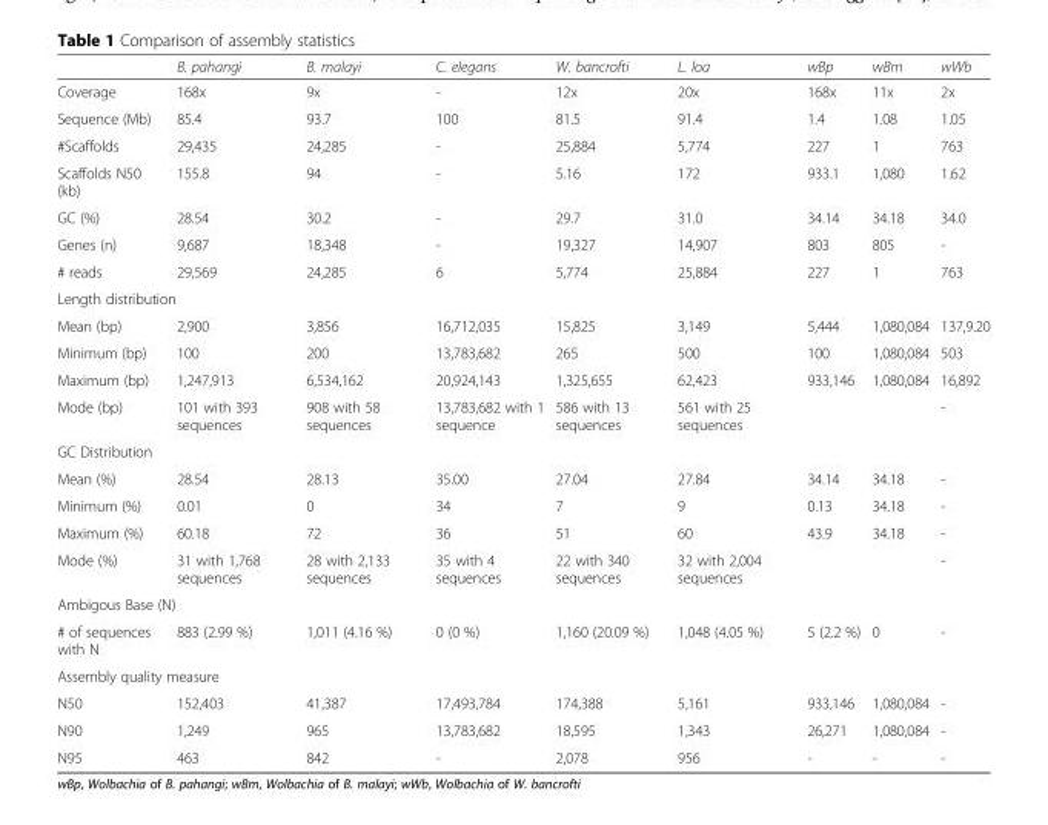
<table><thead><tr><td></td><td>B. pahangi</td><td>B. malayi</td><td>C. elegans</td><td>W. bancrofti</td><td>L. loa</td><td>wBp</td><td>wBm</td><td>wWb</td></tr></thead><tbody><tr><td>Coverage</td><td>168x</td><td>9x</td><td>-</td><td>12x</td><td>20x</td><td>168x</td><td>11x</td><td>2x</td></tr><tr><td>Sequence (Mb)</td><td>85.4</td><td>93.7</td><td>100</td><td>81.5</td><td>91.4</td><td>1.4</td><td>1.08</td><td>1.05</td></tr><tr><td>#Scaffolds</td><td>29,435</td><td>24,285</td><td>-</td><td>25,884</td><td>5,774</td><td>227</td><td>1</td><td>763</td></tr><tr><td>Scaffolds N50 (kb)</td><td>155.8</td><td>94</td><td>-</td><td>5.16</td><td>172</td><td>933.1</td><td>1,080</td><td>1.62</td></tr><tr><td>GC (%)</td><td>28.54</td><td>30.2</td><td>-</td><td>29.7</td><td>31.0</td><td>34.14</td><td>34.18</td><td>34.0</td></tr><tr><td>Genes (n)</td><td>9,687</td><td>18,348</td><td>-</td><td>19,327</td><td>14,907</td><td>803</td><td>805</td><td>-</td></tr><tr><td># reads</td><td>29,569</td><td>24,285</td><td>6</td><td>5,774</td><td>25,884</td><td>227</td><td>1</td><td>763</td></tr><tr><td colspan="9">Length distribution</td></tr><tr><td>Mean (bp)</td><td>2,900</td><td>3,856</td><td>16,712,035</td><td>15,825</td><td>3,149</td><td>5,444</td><td>1,080,084</td><td>137,9.20</td></tr><tr><td>Minimum (bp)</td><td>100</td><td>200</td><td>13,783,682</td><td>265</td><td>500</td><td>100</td><td>1,080,084</td><td>503</td></tr><tr><td>Maximum (bp)</td><td>1,247,913</td><td>6,534,162</td><td>20,924,143</td><td>1,325,655</td><td>62,423</td><td>933,146</td><td>1,080,084</td><td>16,892</td></tr><tr><td>Mode (bp)</td><td>101 with 393 sequences</td><td>908 with 58 sequences</td><td>13,783,682 with 1 sequence</td><td>586 with 13 sequences</td><td>561 with 25 sequences</td><td></td><td></td><td>-</td></tr><tr><td colspan="9">GC Distribution</td></tr><tr><td>Mean (%)</td><td>28.54</td><td>28.13</td><td>35.00</td><td>27.04</td><td>27.84</td><td>34.14</td><td>34.18</td><td>-</td></tr><tr><td>Minimum (%)</td><td>0.01</td><td>0</td><td>34</td><td>7</td><td>9</td><td>0.13</td><td>34.18</td><td>-</td></tr><tr><td>Maximum (%)</td><td>60.18</td><td>72</td><td>36</td><td>51</td><td>60</td><td>43.9</td><td>34.18</td><td>-</td></tr><tr><td>Mode (%)</td><td>31 with 1,768 sequences</td><td>28 with 2,133 sequences</td><td>35 with 4 sequences</td><td>22 with 340 sequences</td><td>32 with 2,004 sequences</td><td></td><td></td><td>-</td></tr><tr><td colspan="9">Ambigous Base (N)</td></tr><tr><td># of sequences with N</td><td>883 (2.99 %)</td><td>1,011 (4.16 %)</td><td>0 (0 %)</td><td>1,160 (20.09 %)</td><td>1,048 (4.05 %)</td><td>5 (2.2 %)</td><td>0</td><td>-</td></tr><tr><td colspan="9">Assembly quality measure</td></tr><tr><td>N50</td><td>152,403</td><td>41,387</td><td>17,493,784</td><td>174,388</td><td>5,161</td><td>933,146</td><td>1,080,084</td><td>-</td></tr><tr><td>N90</td><td>1,249</td><td>965</td><td>13,783,682</td><td>18,595</td><td>1,343</td><td>26,271</td><td>1,080,084</td><td>-</td></tr><tr><td>N95</td><td>463</td><td>842</td><td>-</td><td>2,078</td><td>956</td><td>-</td><td>-</td><td>-</td></tr></tbody></table>